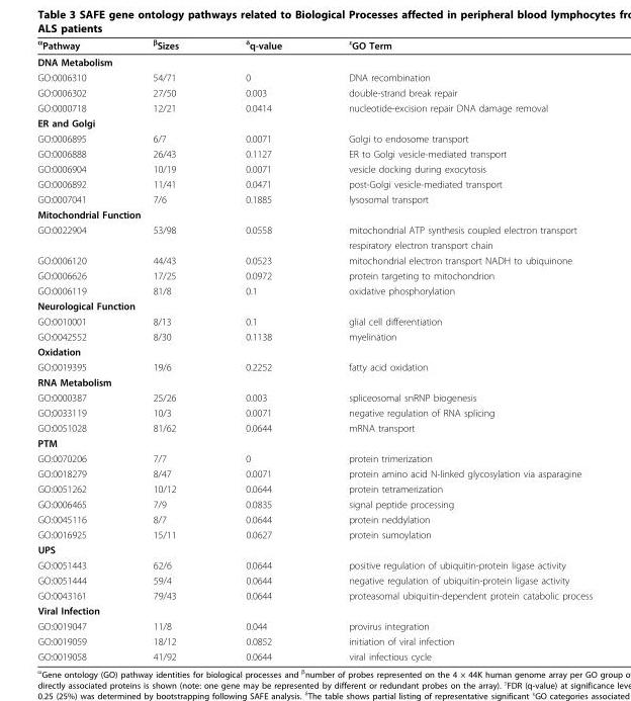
<table><thead><tr><td><sup>α</sup>Pathway</td><td><sup>β</sup>Sizes</td><td><sup>δ</sup>q-value</td><td><sup>ε</sup>GO Term</td></tr></thead><tbody><tr><td colspan="4">DNA Metabolism</td></tr><tr><td>GO:0006310</td><td>54/71</td><td>0</td><td>DNA recombination</td></tr><tr><td>GO:0006302</td><td>27/50</td><td>0.003</td><td>double-strand break repair</td></tr><tr><td>GO:0000718</td><td>12/21</td><td>0.0414</td><td>nucleotide-excision repair DNA damage removal</td></tr><tr><td colspan="4">ER and Golgi</td></tr><tr><td>GO:0006895</td><td>6/7</td><td>0.0071</td><td>Golgi to endosome transport</td></tr><tr><td>GO:0006888</td><td>26/43</td><td>0.1127</td><td>ER to Golgi vesicle-mediated transport</td></tr><tr><td>GO:0006904</td><td>10/19</td><td>0.0071</td><td>vesicle docking during exocytosis</td></tr><tr><td>GO:0006892</td><td>11/41</td><td>0.0471</td><td>post-Golgi vesicle-mediated transport</td></tr><tr><td>GO:0007041</td><td>7/6</td><td>0.1885</td><td>lysosomal transport</td></tr><tr><td colspan="4">Mitochondrial Function</td></tr><tr><td rowspan="2">GO:0022904</td><td>53/98</td><td>0.0558</td><td>mitochondrial ATP synthesis coupled electron transport</td></tr><tr><td></td><td></td><td>respiratory electron transport chain</td></tr><tr><td>GO:0006120</td><td>44/43</td><td>0.0523</td><td>mitochondrial electron transport NADH to ubiquinone</td></tr><tr><td>GO:0006626</td><td>17/25</td><td>0.0972</td><td>protein targeting to mitochondrion</td></tr><tr><td>GO:0006119</td><td>81/8</td><td>0.1</td><td>oxidative phosphorylation</td></tr><tr><td colspan="4">Neurological Function</td></tr><tr><td>GO:0010001</td><td>8/13</td><td>0.1</td><td>glial cell differentiation</td></tr><tr><td>GO:0042552</td><td>8/30</td><td>0.1138</td><td>myelination</td></tr><tr><td colspan="4">Oxidation</td></tr><tr><td>GO:0019395</td><td>19/6</td><td>0.2252</td><td>fatty acid oxidation</td></tr><tr><td colspan="4">RNA Metabolism</td></tr><tr><td>GO:0000387</td><td>25/26</td><td>0.003</td><td>spliceosomal snRNP biogenesis</td></tr><tr><td>GO:0033119</td><td>10/3</td><td>0.0071</td><td>negative regulation of RNA splicing</td></tr><tr><td>GO:0051028</td><td>81/62</td><td>0.0644</td><td>mRNA transport</td></tr><tr><td colspan="4">PTM</td></tr><tr><td>GO:0070206</td><td>7/7</td><td>0</td><td>protein trimerization</td></tr><tr><td>GO:0018279</td><td>8/47</td><td>0.0071</td><td>protein amino acid N-linked glycosylation via asparagine</td></tr><tr><td>GO:0051262</td><td>10/12</td><td>0.0644</td><td>protein tetramerization</td></tr><tr><td>GO:0006465</td><td>7/9</td><td>0.0835</td><td>signal peptide processing</td></tr><tr><td>GO:0045116</td><td>8/7</td><td>0.0644</td><td>protein neddylation</td></tr><tr><td>GO:0016925</td><td>15/11</td><td>0.0627</td><td>protein sumoylation</td></tr><tr><td colspan="4">UPS</td></tr><tr><td>GO:0051443</td><td>62/6</td><td>0.0644</td><td>positive regulation of ubiquitin-protein ligase activity</td></tr><tr><td>GO:0051444</td><td>59/4</td><td>0.0644</td><td>negative regulation of ubiquitin-protein ligase activity</td></tr><tr><td>GO:0043161</td><td>79/43</td><td>0.0644</td><td>proteasomal ubiquitin-dependent protein catabolic process</td></tr><tr><td colspan="4">Viral Infection</td></tr><tr><td>GO:0019047</td><td>11/8</td><td>0.044</td><td>provirus integration</td></tr><tr><td>GO:0019059</td><td>18/12</td><td>0.0852</td><td>initiation of viral infection</td></tr><tr><td>GO:0019058</td><td>41/92</td><td>0.0644</td><td>viral infectious cycle</td></tr></tbody></table>